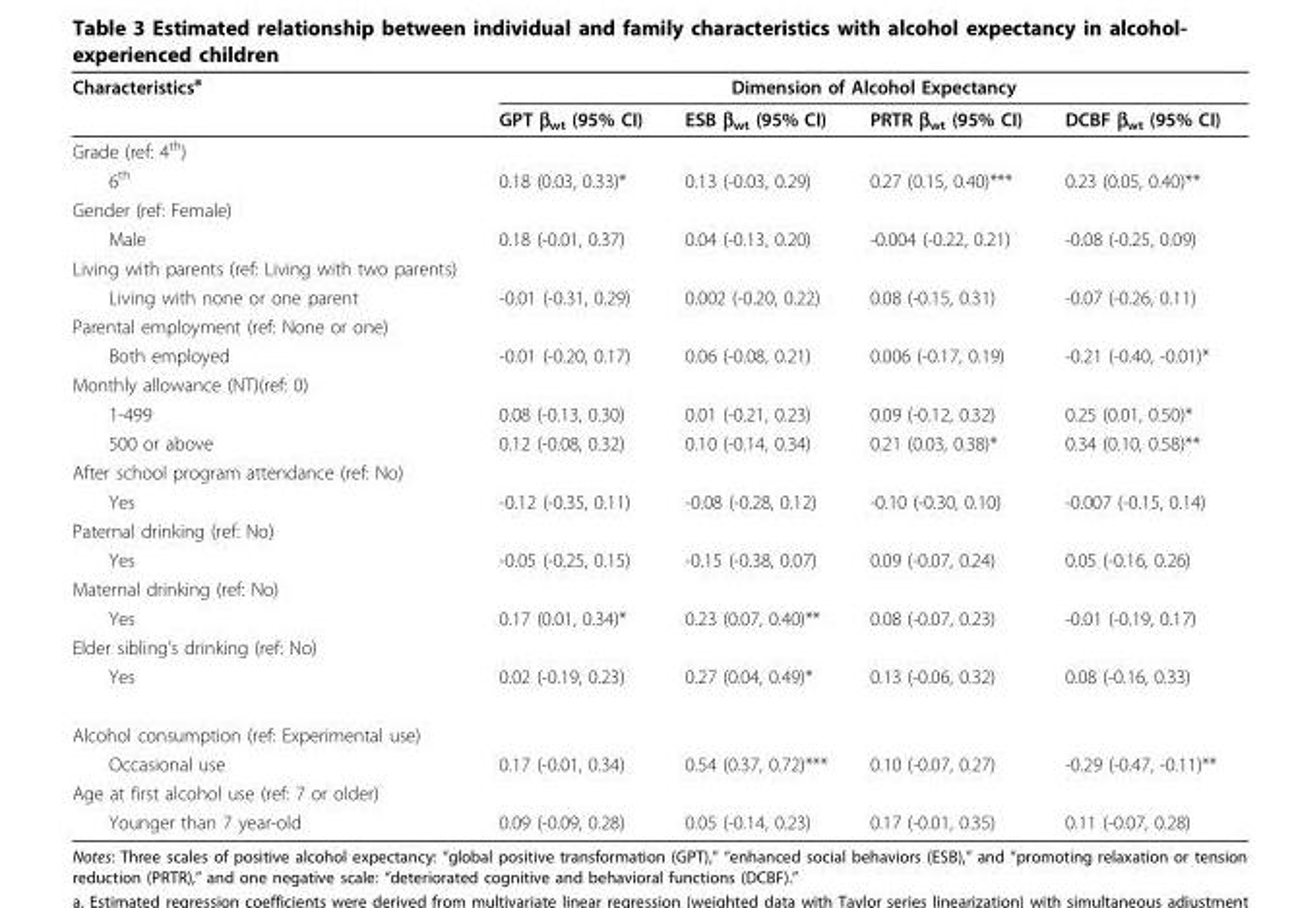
<table><thead><tr><td rowspan="2">Characteristics<sup>a</sup></td><td colspan="4">Dimension of Alcohol Expectancy</td></tr><tr><td>GPT β<sub>wt</sub> (95% CI)</td><td>ESB β<sub>wt</sub> (95% CI)</td><td>PRTR β<sub>wt</sub> (95% CI)</td><td>DCBF β<sub>wt</sub> (95% CI)</td></tr></thead><tbody><tr><td colspan="5">Grade (ref: 4<sup>th</sup>)</td></tr><tr><td>6<sup>th</sup></td><td>0.18 (0.03, 0.33)*</td><td>0.13 (-0.03, 0.29)</td><td>0.27 (0.15, 0.40)***</td><td>0.23 (0.05, 0.40)**</td></tr><tr><td colspan="5">Gender (ref: Female)</td></tr><tr><td>Male</td><td>0.18 (-0.01, 0.37)</td><td>0.04 (-0.13, 0.20)</td><td>-0.004 (-0.22, 0.21)</td><td>-0.08 (-0.25, 0.09)</td></tr><tr><td colspan="5">Living with parents (ref: Living with two parents)</td></tr><tr><td>Living with none or one parent</td><td>-0.01 (-0.31, 0.29)</td><td>0.002 (-0.20, 0.22)</td><td>0.08 (-0.15, 0.31)</td><td>-0.07 (-0.26, 0.11)</td></tr><tr><td colspan="5">Parental employment (ref: None or one)</td></tr><tr><td>Both employed</td><td>-0.01 (-0.20, 0.17)</td><td>0.06 (-0.08, 0.21)</td><td>0.006 (-0.17, 0.19)</td><td>-0.21 (-0.40, -0.01)*</td></tr><tr><td colspan="5">Monthly allowance (NT)(ref: 0)</td></tr><tr><td>1-499</td><td>0.08 (-0.13, 0.30)</td><td>0.01 (-0.21, 0.23)</td><td>0.09 (-0.12, 0.32)</td><td>0.25 (0.01, 0.50)*</td></tr><tr><td>500 or above</td><td>0.12 (-0.08, 0.32)</td><td>0.10 (-0.14, 0.34)</td><td>0.21 (0.03, 0.38)*</td><td>0.34 (0.10, 0.58)**</td></tr><tr><td colspan="5">After school program attendance (ref: No)</td></tr><tr><td>Yes</td><td>-0.12 (-0.35, 0.11)</td><td>-0.08 (-0.28, 0.12)</td><td>-0.10 (-0.30, 0.10)</td><td>-0.007 (-0.15, 0.14)</td></tr><tr><td colspan="5">Paternal drinking (ref: No)</td></tr><tr><td>Yes</td><td>-0.05 (-0.25, 0.15)</td><td>-0.15 (-0.38, 0.07)</td><td>0.09 (-0.07, 0.24)</td><td>0.05 (-0.16, 0.26)</td></tr><tr><td colspan="5">Maternal drinking (ref: No)</td></tr><tr><td>Yes</td><td>0.17 (0.01, 0.34)*</td><td>0.23 (0.07, 0.40)**</td><td>0.08 (-0.07, 0.23)</td><td>-0.01 (-0.19, 0.17)</td></tr><tr><td colspan="5">Elder sibling’s drinking (ref: No)</td></tr><tr><td>Yes</td><td>0.02 (-0.19, 0.23)</td><td>0.27 (0.04, 0.49)*</td><td>0.13 (-0.06, 0.32)</td><td>0.08 (-0.16, 0.33)</td></tr><tr><td colspan="5">Alcohol consumption (ref: Experimental use)</td></tr><tr><td>Occasional use</td><td>0.17 (-0.01, 0.34)</td><td>0.54 (0.37, 0.72)***</td><td>0.10 (-0.07, 0.27)</td><td>-0.29 (-0.47, -0.11)**</td></tr><tr><td colspan="5">Age at first alcohol use (ref: 7 or older)</td></tr><tr><td>Younger than 7 year-old</td><td>0.09 (-0.09, 0.28)</td><td>0.05 (-0.14, 0.23)</td><td>0.17 (-0.01, 0.35)</td><td>0.11 (-0.07, 0.28)</td></tr></tbody></table>